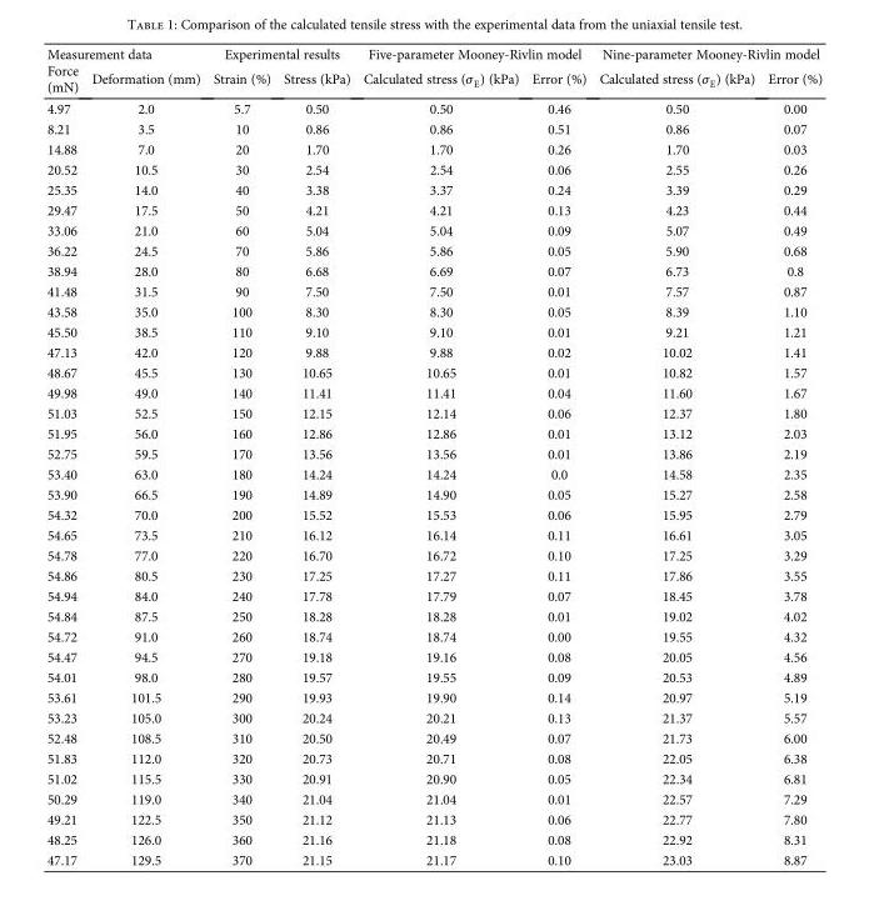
<table><thead><tr><td colspan="2">Measurement data</td><td colspan="2">Experimental results</td><td colspan="2">Five-parameter Mooney-Rivlin model</td><td colspan="2">Nine-parameter Mooney-Rivlin model</td></tr><tr><td>Force (mN)</td><td>Deformation (mm)</td><td>Strain (%)</td><td>Stress (kPa)</td><td>Calculated stress (σ<sub>E</sub>) (kPa)</td><td>Error (%)</td><td>Calculated stress (σ<sub>E</sub>) (kPa)</td><td>Error (%)</td></tr></thead><tbody><tr><td>4.97</td><td>2.0</td><td>5.7</td><td>0.50</td><td>0.50</td><td>0.46</td><td>0.50</td><td>0.00</td></tr><tr><td>8.21</td><td>3.5</td><td>10</td><td>0.86</td><td>0.86</td><td>0.51</td><td>0.86</td><td>0.07</td></tr><tr><td>14.88</td><td>7.0</td><td>20</td><td>1.70</td><td>1.70</td><td>0.26</td><td>1.70</td><td>0.03</td></tr><tr><td>20.52</td><td>10.5</td><td>30</td><td>2.54</td><td>2.54</td><td>0.06</td><td>2.55</td><td>0.26</td></tr><tr><td>25.35</td><td>14.0</td><td>40</td><td>3.38</td><td>3.37</td><td>0.24</td><td>3.39</td><td>0.29</td></tr><tr><td>29.47</td><td>17.5</td><td>50</td><td>4.21</td><td>4.21</td><td>0.13</td><td>4.23</td><td>0.44</td></tr><tr><td>33.06</td><td>21.0</td><td>60</td><td>5.04</td><td>5.04</td><td>0.09</td><td>5.07</td><td>0.49</td></tr><tr><td>36.22</td><td>24.5</td><td>70</td><td>5.86</td><td>5.86</td><td>0.05</td><td>5.90</td><td>0.68</td></tr><tr><td>38.94</td><td>28.0</td><td>80</td><td>6.68</td><td>6.69</td><td>0.07</td><td>6.73</td><td>0.8</td></tr><tr><td>41.48</td><td>31.5</td><td>90</td><td>7.50</td><td>7.50</td><td>0.01</td><td>7.57</td><td>0.87</td></tr><tr><td>43.58</td><td>35.0</td><td>100</td><td>8.30</td><td>8.30</td><td>0.05</td><td>8.39</td><td>1.10</td></tr><tr><td>45.50</td><td>38.5</td><td>110</td><td>9.10</td><td>9.10</td><td>0.01</td><td>9.21</td><td>1.21</td></tr><tr><td>47.13</td><td>42.0</td><td>120</td><td>9.88</td><td>9.88</td><td>0.02</td><td>10.02</td><td>1.41</td></tr><tr><td>48.67</td><td>45.5</td><td>130</td><td>10.65</td><td>10.65</td><td>0.01</td><td>10.82</td><td>1.57</td></tr><tr><td>49.98</td><td>49.0</td><td>140</td><td>11.41</td><td>11.41</td><td>0.04</td><td>11.60</td><td>1.67</td></tr><tr><td>51.03</td><td>52.5</td><td>150</td><td>12.15</td><td>12.14</td><td>0.06</td><td>12.37</td><td>1.80</td></tr><tr><td>51.95</td><td>56.0</td><td>160</td><td>12.86</td><td>12.86</td><td>0.01</td><td>13.12</td><td>2.03</td></tr><tr><td>52.75</td><td>59.5</td><td>170</td><td>13.56</td><td>13.56</td><td>0.01</td><td>13.86</td><td>2.19</td></tr><tr><td>53.40</td><td>63.0</td><td>180</td><td>14.24</td><td>14.24</td><td>0.0</td><td>14.58</td><td>2.35</td></tr><tr><td>53.90</td><td>66.5</td><td>190</td><td>14.89</td><td>14.90</td><td>0.05</td><td>15.27</td><td>2.58</td></tr><tr><td>54.32</td><td>70.0</td><td>200</td><td>15.52</td><td>15.53</td><td>0.06</td><td>15.95</td><td>2.79</td></tr><tr><td>54.65</td><td>73.5</td><td>210</td><td>16.12</td><td>16.14</td><td>0.11</td><td>16.61</td><td>3.05</td></tr><tr><td>54.78</td><td>77.0</td><td>220</td><td>16.70</td><td>16.72</td><td>0.10</td><td>17.25</td><td>3.29</td></tr><tr><td>54.86</td><td>80.5</td><td>230</td><td>17.25</td><td>17.27</td><td>0.11</td><td>17.86</td><td>3.55</td></tr><tr><td>54.94</td><td>84.0</td><td>240</td><td>17.78</td><td>17.79</td><td>0.07</td><td>18.45</td><td>3.78</td></tr><tr><td>54.84</td><td>87.5</td><td>250</td><td>18.28</td><td>18.28</td><td>0.01</td><td>19.02</td><td>4.02</td></tr><tr><td>54.72</td><td>91.0</td><td>260</td><td>18.74</td><td>18.74</td><td>0.00</td><td>19.55</td><td>4.32</td></tr><tr><td>54.47</td><td>94.5</td><td>270</td><td>19.18</td><td>19.16</td><td>0.08</td><td>20.05</td><td>4.56</td></tr><tr><td>54.01</td><td>98.0</td><td>280</td><td>19.57</td><td>19.55</td><td>0.09</td><td>20.53</td><td>4.89</td></tr><tr><td>53.61</td><td>101.5</td><td>290</td><td>19.93</td><td>19.90</td><td>0.14</td><td>20.97</td><td>5.19</td></tr><tr><td>53.23</td><td>105.0</td><td>300</td><td>20.24</td><td>20.21</td><td>0.13</td><td>21.37</td><td>5.57</td></tr><tr><td>52.48</td><td>108.5</td><td>310</td><td>20.50</td><td>20.49</td><td>0.07</td><td>21.73</td><td>6.00</td></tr><tr><td>51.83</td><td>112.0</td><td>320</td><td>20.73</td><td>20.71</td><td>0.08</td><td>22.05</td><td>6.38</td></tr><tr><td>51.02</td><td>115.5</td><td>330</td><td>20.91</td><td>20.90</td><td>0.05</td><td>22.34</td><td>6.81</td></tr><tr><td>50.29</td><td>119.0</td><td>340</td><td>21.04</td><td>21.04</td><td>0.01</td><td>22.57</td><td>7.29</td></tr><tr><td>49.21</td><td>122.5</td><td>350</td><td>21.12</td><td>21.13</td><td>0.06</td><td>22.77</td><td>7.80</td></tr><tr><td>48.25</td><td>126.0</td><td>360</td><td>21.16</td><td>21.18</td><td>0.08</td><td>22.92</td><td>8.31</td></tr><tr><td>47.17</td><td>129.5</td><td>370</td><td>21.15</td><td>21.17</td><td>0.10</td><td>23.03</td><td>8.87</td></tr></tbody></table>